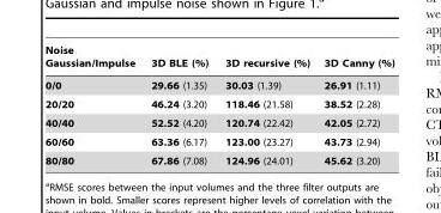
<table><thead><tr><td>Noise Gaussian/Impulse</td><td>3D BLE (%)</td><td>3D recursive (%)</td><td>3D Canny (%)</td></tr></thead><tbody><tr><td>0/0</td><td>29.66 (1.35)</td><td>30.03 (1.39)</td><td>26.91 (1.11)</td></tr><tr><td>20/20</td><td>46.24 (3.20)</td><td>118.46 (21.58)</td><td>38.52 (2.28)</td></tr><tr><td>40/40</td><td>52.52 (4.20)</td><td>120.74 (22.42)</td><td>42.05 (2.72)</td></tr><tr><td>60/60</td><td>63.36 (6.17)</td><td>123.00 (23.27)</td><td>43.73 (2.94)</td></tr><tr><td>80/80</td><td>67.86 (7.08)</td><td>124.96 (24.01)</td><td>45.62 (3.20)</td></tr></tbody></table>